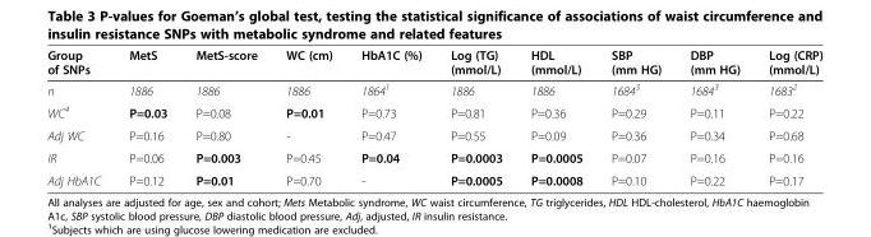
<table><thead><tr><td>Group of SNPs</td><td>MetS</td><td>MetS-score</td><td>WC (cm)</td><td>HbA1C (%)</td><td>Log (TG) (mmol/L)</td><td>HDL (mmol/L)</td><td>SBP (mm HG)</td><td>DBP (mm HG)</td><td>Log (CRP) (mmol/L)</td></tr></thead><tbody><tr><td>n</td><td>1886</td><td>1886</td><td>1886</td><td>1864<sup>1</sup></td><td>1886</td><td>1886</td><td>1684<sup>3</sup></td><td>1684<sup>3</sup></td><td>1683<sup>2</sup></td></tr><tr><td>WC<sup>4</sup></td><td>P=0.03</td><td>P=0.08</td><td>P=0.01</td><td>P=0.73</td><td>P=0.81</td><td>P=0.36</td><td>P=0.29</td><td>P=0.11</td><td>P=0.22</td></tr><tr><td>Adj WC</td><td>P=0.16</td><td>P=0.80</td><td>-</td><td>P=0.47</td><td>P=0.55</td><td>P=0.09</td><td>P=0.36</td><td>P=0.34</td><td>P=0.68</td></tr><tr><td>IR</td><td>P=0.06</td><td>P=0.003</td><td>P=0.45</td><td>P=0.04</td><td>P=0.0003</td><td>P=0.0005</td><td>P=0.07</td><td>P=0.16</td><td>P=0.16</td></tr><tr><td>Adj HbA1C</td><td>P=0.12</td><td>P=0.01</td><td>P=0.70</td><td>-</td><td>P=0.0005</td><td>P=0.0008</td><td>P=0.10</td><td>P=0.22</td><td>P=0.17</td></tr></tbody></table>